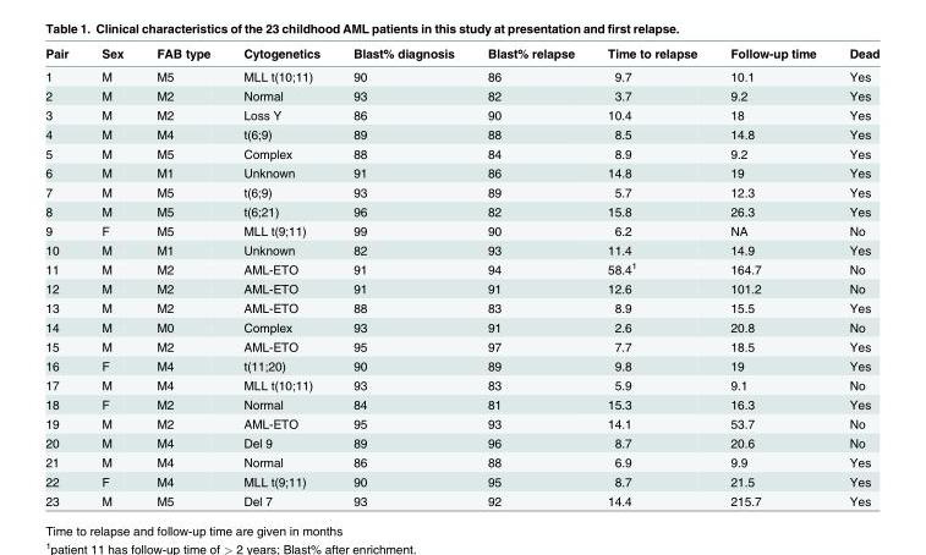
<table><thead><tr><td>Pair</td><td>Sex</td><td>FAB type</td><td>Cytogenetics</td><td>Blast% diagnosis</td><td>Blast% relapse</td><td>Time to relapse</td><td>Follow-up time</td><td>Dead</td></tr></thead><tbody><tr><td>1</td><td>M</td><td>M5</td><td>MLL t(10;11)</td><td>90</td><td>86</td><td>9.7</td><td>10.1</td><td>Yes</td></tr><tr><td>2</td><td>M</td><td>M2</td><td>Normal</td><td>93</td><td>82</td><td>3.7</td><td>9.2</td><td>Yes</td></tr><tr><td>3</td><td>M</td><td>M2</td><td>Loss Y</td><td>86</td><td>90</td><td>10.4</td><td>18</td><td>Yes</td></tr><tr><td>4</td><td>M</td><td>M4</td><td>t(6;9)</td><td>89</td><td>88</td><td>8.5</td><td>14.8</td><td>Yes</td></tr><tr><td>5</td><td>M</td><td>M5</td><td>Complex</td><td>88</td><td>84</td><td>8.9</td><td>9.2</td><td>Yes</td></tr><tr><td>6</td><td>M</td><td>M1</td><td>Unknown</td><td>91</td><td>86</td><td>14.8</td><td>19</td><td>Yes</td></tr><tr><td>7</td><td>M</td><td>M5</td><td>t(6;9)</td><td>93</td><td>89</td><td>5.7</td><td>12.3</td><td>Yes</td></tr><tr><td>8</td><td>M</td><td>M5</td><td>t(6;21)</td><td>96</td><td>82</td><td>15.8</td><td>26.3</td><td>Yes</td></tr><tr><td>9</td><td>F</td><td>M5</td><td>MLL t(9;11)</td><td>99</td><td>90</td><td>6.2</td><td>NA</td><td>No</td></tr><tr><td>10</td><td>M</td><td>M1</td><td>Unknown</td><td>82</td><td>93</td><td>11.4</td><td>14.9</td><td>Yes</td></tr><tr><td>11</td><td>M</td><td>M2</td><td>AML-ETO</td><td>91</td><td>94</td><td>58.4<sup>1</sup></td><td>164.7</td><td>No</td></tr><tr><td>12</td><td>M</td><td>M2</td><td>AML-ETO</td><td>91</td><td>91</td><td>12.6</td><td>101.2</td><td>No</td></tr><tr><td>13</td><td>M</td><td>M2</td><td>AML-ETO</td><td>88</td><td>83</td><td>8.9</td><td>15.5</td><td>Yes</td></tr><tr><td>14</td><td>M</td><td>M0</td><td>Complex</td><td>93</td><td>91</td><td>2.6</td><td>20.8</td><td>No</td></tr><tr><td>15</td><td>M</td><td>M2</td><td>AML-ETO</td><td>95</td><td>97</td><td>7.7</td><td>18.5</td><td>Yes</td></tr><tr><td>16</td><td>F</td><td>M4</td><td>t(11;20)</td><td>90</td><td>89</td><td>9.8</td><td>19</td><td>Yes</td></tr><tr><td>17</td><td>M</td><td>M4</td><td>MLL t(10;11)</td><td>93</td><td>83</td><td>5.9</td><td>9.1</td><td>No</td></tr><tr><td>18</td><td>F</td><td>M2</td><td>Normal</td><td>84</td><td>81</td><td>15.3</td><td>16.3</td><td>Yes</td></tr><tr><td>19</td><td>M</td><td>M2</td><td>AML-ETO</td><td>95</td><td>93</td><td>14.1</td><td>53.7</td><td>No</td></tr><tr><td>20</td><td>M</td><td>M4</td><td>Del 9</td><td>89</td><td>96</td><td>8.7</td><td>20.6</td><td>No</td></tr><tr><td>21</td><td>M</td><td>M4</td><td>Normal</td><td>86</td><td>88</td><td>6.9</td><td>9.9</td><td>Yes</td></tr><tr><td>22</td><td>F</td><td>M4</td><td>MLL t(9;11)</td><td>90</td><td>95</td><td>8.7</td><td>21.5</td><td>Yes</td></tr><tr><td>23</td><td>M</td><td>M5</td><td>Del 7</td><td>93</td><td>92</td><td>14.4</td><td>215.7</td><td>Yes</td></tr></tbody></table>